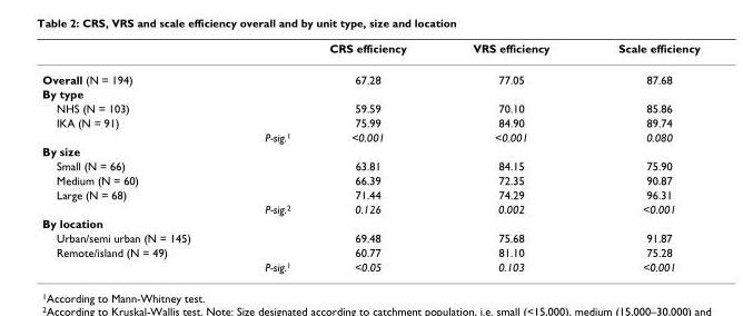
<table><thead><tr><td></td><td>CRS efficiency</td><td>VRS efficiency</td><td>Scale efficiency</td></tr></thead><tbody><tr><td>Overall (N = 194)</td><td>67.28</td><td>77.05</td><td>87.68</td></tr><tr><td colspan="4">By type</td></tr><tr><td>NHS (N = 103)</td><td>59.59</td><td>70.10</td><td>85.86</td></tr><tr><td>IKA (N = 91)</td><td>75.99</td><td>84.90</td><td>89.74</td></tr><tr><td>P-sig.<sup>1</sup></td><td>&lt;0.001</td><td>&lt;0.001</td><td>0.080</td></tr><tr><td colspan="4">By size</td></tr><tr><td>Small (N = 66)</td><td>63.81</td><td>84.15</td><td>75.90</td></tr><tr><td>Medium (N = 60)</td><td>66.39</td><td>72.35</td><td>90.87</td></tr><tr><td>Large (N = 68)</td><td>71.44</td><td>74.29</td><td>96.31</td></tr><tr><td>P-sig.<sup>2</sup></td><td>0.126</td><td>0.002</td><td>&lt;0.001</td></tr><tr><td colspan="4">By location</td></tr><tr><td>Urban/semi urban (N = 145)</td><td>69.48</td><td>75.68</td><td>91.87</td></tr><tr><td>Remote/island (N = 49)</td><td>60.77</td><td>81.10</td><td>75.28</td></tr><tr><td>P-sig.<sup>1</sup></td><td>&lt;0.05</td><td>0.103</td><td>&lt;0.001</td></tr></tbody></table>